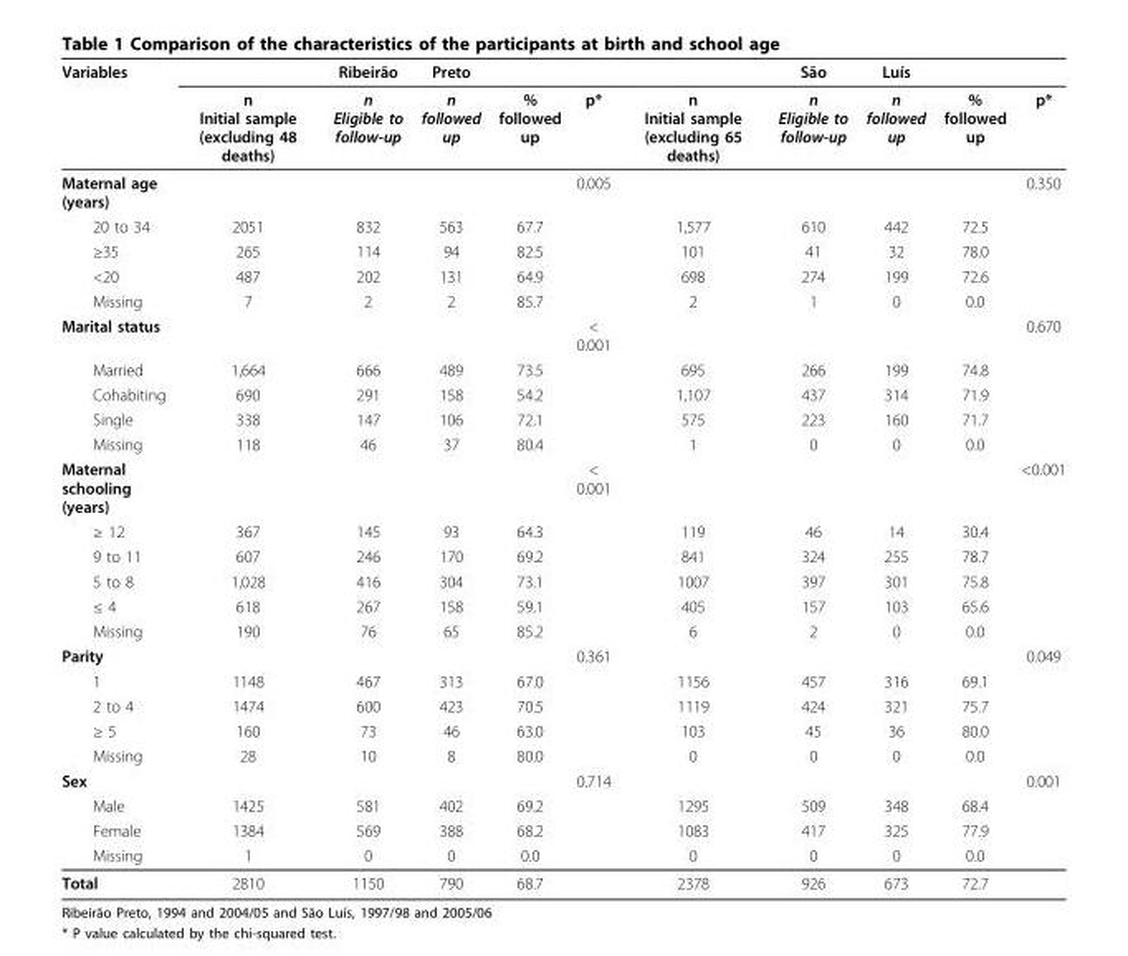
<table><tbody><tr><td rowspan="2">Variables</td><td></td><td>Ribeirão</td><td>Preto</td><td></td><td></td><td></td><td>São</td><td>Luís</td><td></td><td></td></tr><tr><td>n Initial sample (excluding 48 deaths)</td><td>n Eligible to follow-up</td><td>n followed up</td><td>% followed up</td><td>p*</td><td>n Initial sample (excluding 65 deaths)</td><td>n Eligible to follow-up</td><td>n followed up</td><td>% followed up</td><td>p*</td></tr><tr><td>Maternal age (years)</td><td></td><td></td><td></td><td></td><td>0.005</td><td></td><td></td><td></td><td></td><td>0.350</td></tr><tr><td>20 to 34</td><td>2051</td><td>832</td><td>563</td><td>67.7</td><td></td><td>1,577</td><td>610</td><td>442</td><td>72.5</td><td></td></tr><tr><td>≥35</td><td>265</td><td>114</td><td>94</td><td>82.5</td><td></td><td>101</td><td>41</td><td>32</td><td>78.0</td><td></td></tr><tr><td>&lt;20</td><td>487</td><td>202</td><td>131</td><td>64.9</td><td></td><td>698</td><td>274</td><td>199</td><td>72.6</td><td></td></tr><tr><td>Missing</td><td>7</td><td>2</td><td>2</td><td>85.7</td><td></td><td>2</td><td>1</td><td>0</td><td>0.0</td><td></td></tr><tr><td>Marital status</td><td></td><td></td><td></td><td></td><td>&lt; 0.001</td><td></td><td></td><td></td><td></td><td>0.670</td></tr><tr><td>Married</td><td>1,664</td><td>666</td><td>489</td><td>73.5</td><td></td><td>695</td><td>266</td><td>199</td><td>74.8</td><td></td></tr><tr><td>Cohabiting</td><td>690</td><td>291</td><td>158</td><td>54.2</td><td></td><td>1,107</td><td>437</td><td>314</td><td>71.9</td><td></td></tr><tr><td>Single</td><td>338</td><td>147</td><td>106</td><td>72.1</td><td></td><td>575</td><td>223</td><td>160</td><td>71.7</td><td></td></tr><tr><td>Missing</td><td>118</td><td>46</td><td>37</td><td>80.4</td><td></td><td>1</td><td>0</td><td>0</td><td>0.0</td><td></td></tr><tr><td>Maternal schooling (years)</td><td></td><td></td><td></td><td></td><td>&lt; 0.001</td><td></td><td></td><td></td><td></td><td>&lt;0.001</td></tr><tr><td>≥ 12</td><td>367</td><td>145</td><td>93</td><td>64.3</td><td></td><td>119</td><td>46</td><td>14</td><td>30.4</td><td></td></tr><tr><td>9 to 11</td><td>607</td><td>246</td><td>170</td><td>69.2</td><td></td><td>841</td><td>324</td><td>255</td><td>78.7</td><td></td></tr><tr><td>5 to 8</td><td>1,028</td><td>416</td><td>304</td><td>73.1</td><td></td><td>1007</td><td>397</td><td>301</td><td>75.8</td><td></td></tr><tr><td>≤ 4</td><td>618</td><td>267</td><td>158</td><td>59.1</td><td></td><td>405</td><td>157</td><td>103</td><td>65.6</td><td></td></tr><tr><td>Missing</td><td>190</td><td>76</td><td>65</td><td>85.2</td><td></td><td>6</td><td>2</td><td>0</td><td>0.0</td><td></td></tr><tr><td>Parity</td><td></td><td></td><td></td><td></td><td>0.361</td><td></td><td></td><td></td><td></td><td>0.049</td></tr><tr><td>1</td><td>1148</td><td>467</td><td>313</td><td>67.0</td><td></td><td>1156</td><td>457</td><td>316</td><td>69.1</td><td></td></tr><tr><td>2 to 4</td><td>1474</td><td>600</td><td>423</td><td>70.5</td><td></td><td>1119</td><td>424</td><td>321</td><td>75.7</td><td></td></tr><tr><td>≥ 5</td><td>160</td><td>73</td><td>46</td><td>63.0</td><td></td><td>103</td><td>45</td><td>36</td><td>80.0</td><td></td></tr><tr><td>Missing</td><td>28</td><td>10</td><td>8</td><td>80.0</td><td></td><td>0</td><td>0</td><td>0</td><td>0.0</td><td></td></tr><tr><td>Sex</td><td></td><td></td><td></td><td></td><td>0.714</td><td></td><td></td><td></td><td></td><td>0.001</td></tr><tr><td>Male</td><td>1425</td><td>581</td><td>402</td><td>69.2</td><td></td><td>1295</td><td>509</td><td>348</td><td>68.4</td><td></td></tr><tr><td>Female</td><td>1384</td><td>569</td><td>388</td><td>68.2</td><td></td><td>1083</td><td>417</td><td>325</td><td>77.9</td><td></td></tr><tr><td>Missing</td><td>1</td><td>0</td><td>0</td><td>0.0</td><td></td><td>0</td><td>0</td><td>0</td><td>0.0</td><td></td></tr><tr><td>Total</td><td>2810</td><td>1150</td><td>790</td><td>68.7</td><td></td><td>2378</td><td>926</td><td>673</td><td>72.7</td><td></td></tr></tbody></table>